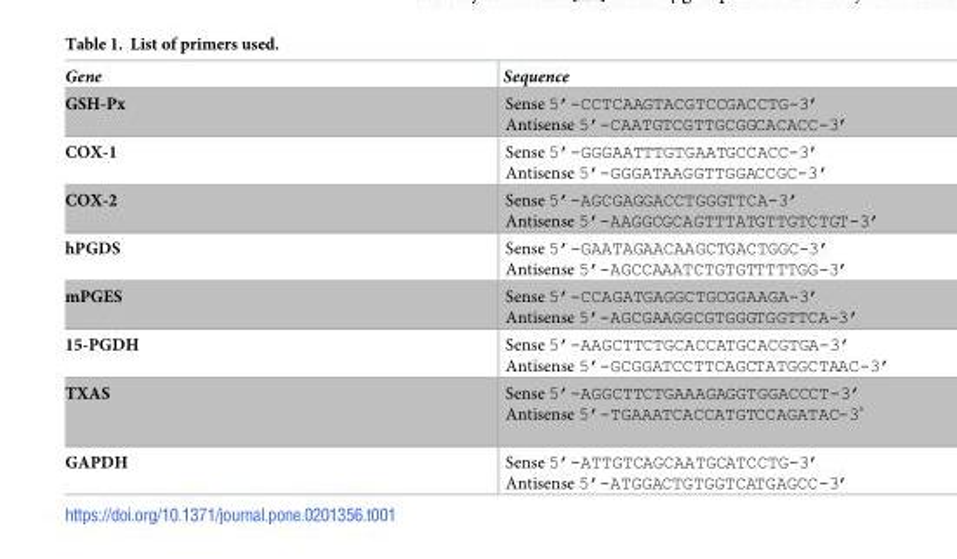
<table><thead><tr><td>Gene</td><td>Sequence</td></tr></thead><tbody><tr><td>GSH-Px</td><td>Sense 5’-CCTCAAGTACGTCCGACCTG-3’ Antisense 5’-CAATGTCGTTGCGGCACACC-3’</td></tr><tr><td>COX-1</td><td>Sense 5’-GGGAATTTGTGAATGCCACC-3’ Antisense 5’-GGGATAAGGTTGGACCGC-3’</td></tr><tr><td>COX-2</td><td>Sense 5’-AGCGAGGACCTGGGTTCA-3’ Antisense 5’-AAGGCGCAGTTTATGTTGTCTGT-3’</td></tr><tr><td>hPGDS</td><td>Sense 5’-GAATAGAACAAGCTGACTGGC-3’ Antisense 5’-AGCCAAATCTGTGTTTTTGG-3’</td></tr><tr><td>mPGES</td><td>Sense 5’-CCAGATGAGGCTGCGGAAGA-3’ Antisense 5’-AGCGAAGGCGTGGGTGGTTCA-3’</td></tr><tr><td>15-PGDH</td><td>Sense 5’-AAGCTTCTGCACCATGCACGTGA-3’ Antisense 5’-GCGGATCCTTCAGCTATGGCTAAC-3’</td></tr><tr><td>TXAS</td><td>Sense 5’-AGGCTTCTGAAAGAGGTGGACCCT-3’ Antisense 5’-TGAAATCACCATGTCCAGATAC-3’</td></tr><tr><td>GAPDH</td><td>Sense 5’-ATTGTCAGCAATGCATCCTG-3’ Antisense 5’-ATGGACTGTGGTCATGAGCC-3’</td></tr></tbody></table>